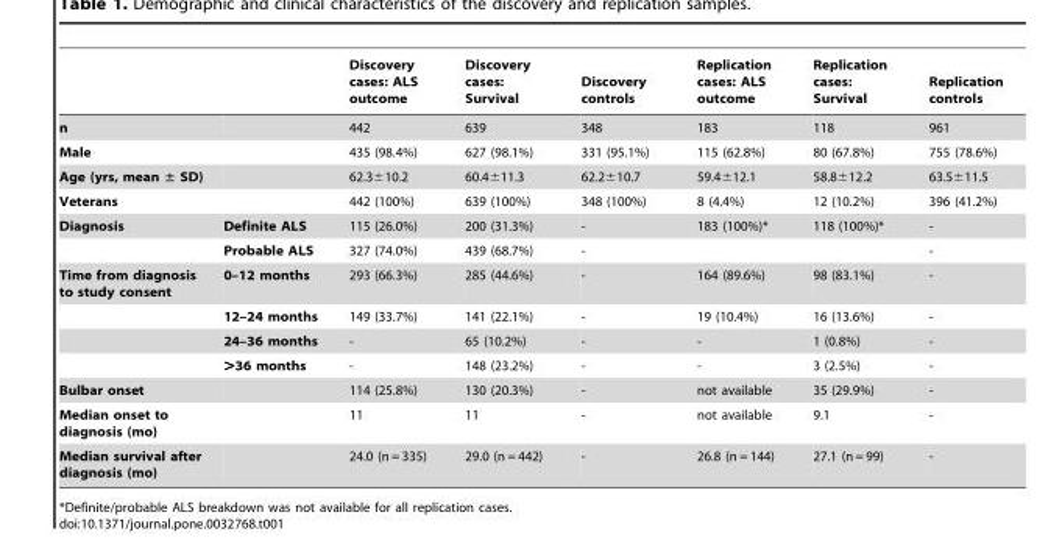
<table><thead><tr><td></td><td></td><td>Discovery cases: ALS outcome</td><td>Discovery cases: Survival</td><td>Discovery controls</td><td>Replication cases: ALS outcome</td><td>Replication cases: Survival</td><td>Replication controls</td></tr></thead><tbody><tr><td>n</td><td></td><td>442</td><td>639</td><td>348</td><td>183</td><td>118</td><td>961</td></tr><tr><td>Male</td><td></td><td>435 (98.4%)</td><td>627 (98.1%)</td><td>331 (95.1%)</td><td>115 (62.8%)</td><td>80 (67.8%)</td><td>755 (78.6%)</td></tr><tr><td>Age (yrs, mean ± SD)</td><td></td><td>62.3±10.2</td><td>60.4±11.3</td><td>62.2±10.7</td><td>59.4±12.1</td><td>58.8±12.2</td><td>63.5±11.5</td></tr><tr><td>Veterans</td><td></td><td>442 (100%)</td><td>639 (100%)</td><td>348 (100%)</td><td>8 (4.4%)</td><td>12 (10.2%)</td><td>396 (41.2%)</td></tr><tr><td rowspan="2">Diagnosis</td><td>Definite ALS</td><td>115 (26.0%)</td><td>200 (31.3%)</td><td>-</td><td>183 (100%)*</td><td>118 (100%)*</td><td>-</td></tr><tr><td>Probable ALS</td><td>327 (74.0%)</td><td>439 (68.7%)</td><td>-</td><td></td><td></td><td>-</td></tr><tr><td rowspan="4">Time from diagnosis to study consent</td><td>0–12 months</td><td>293 (66.3%)</td><td>285 (44.6%)</td><td>-</td><td>164 (89.6%)</td><td>98 (83.1%)</td><td>-</td></tr><tr><td>12–24 months</td><td>149 (33.7%)</td><td>141 (22.1%)</td><td>-</td><td>19 (10.4%)</td><td>16 (13.6%)</td><td>-</td></tr><tr><td>24–36 months</td><td>-</td><td>65 (10.2%)</td><td>-</td><td>-</td><td>1 (0.8%)</td><td>-</td></tr><tr><td>&gt;36 months</td><td>-</td><td>148 (23.2%)</td><td>-</td><td>-</td><td>3 (2.5%)</td><td>-</td></tr><tr><td>Bulbar onset</td><td></td><td>114 (25.8%)</td><td>130 (20.3%)</td><td>-</td><td>not available</td><td>35 (29.9%)</td><td>-</td></tr><tr><td>Median onset to diagnosis (mo)</td><td></td><td>11</td><td>11</td><td>-</td><td>not available</td><td>9.1</td><td>-</td></tr><tr><td>Median survival after diagnosis (mo)</td><td></td><td>24.0 (n = 335)</td><td>29.0 (n = 442)</td><td>-</td><td>26.8 (n = 144)</td><td>27.1 (n = 99)</td><td>-</td></tr></tbody></table>